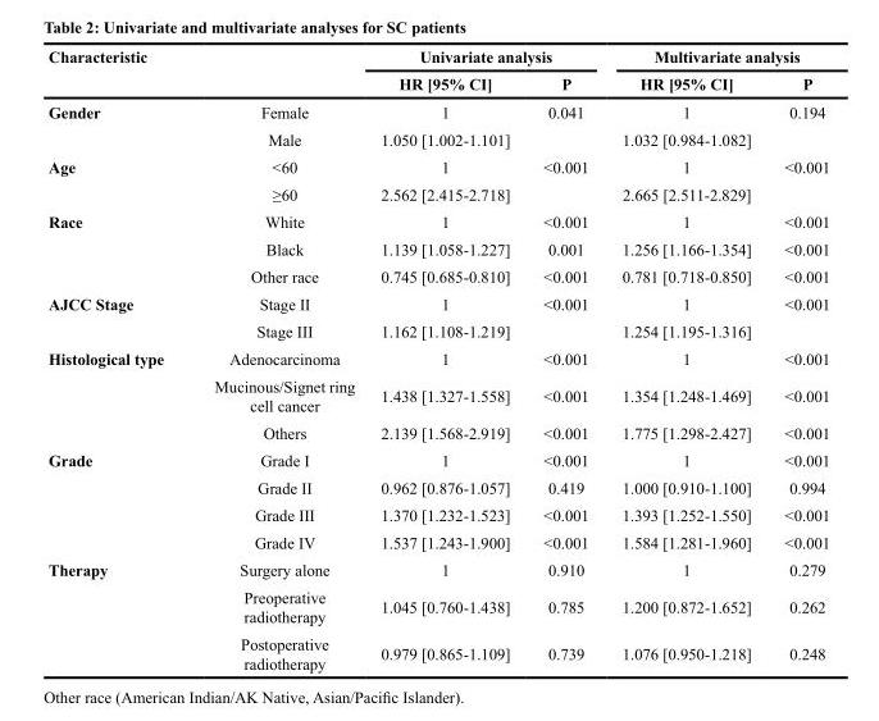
<table><thead><tr><td rowspan="2" colspan="2">Characteristic</td><td colspan="2">Univariate analysis</td><td colspan="2">Multivariate analysis</td></tr><tr><td rowspan="2">HR [95% CI] 1</td><td rowspan="2">P 0.041</td><td rowspan="2">HR [95% CI] 1</td><td rowspan="2">P 0.194</td></tr><tr><td>Gender</td><td>Female</td></tr></thead><tbody><tr><td></td><td>Male</td><td>1.050 [1.002-1.101]</td><td></td><td>1.032 [0.984-1.082]</td><td></td></tr><tr><td rowspan="2">Age</td><td>&lt;60</td><td>1</td><td>&lt;0.001</td><td>1</td><td>&lt;0.001</td></tr><tr><td>≥60</td><td>2.562 [2.415-2.718]</td><td></td><td>2.665 [2.511-2.829]</td><td></td></tr><tr><td rowspan="3">Race</td><td>White</td><td>1</td><td>&lt;0.001</td><td>1</td><td>&lt;0.001</td></tr><tr><td>Black</td><td>1.139 [1.058-1.227]</td><td>0.001</td><td>1.256 [1.166-1.354]</td><td>&lt;0.001</td></tr><tr><td>Other race</td><td>0.745 [0.685-0.810]</td><td>&lt;0.001</td><td>0.781 [0.718-0.850]</td><td>&lt;0.001</td></tr><tr><td rowspan="2">AJCC Stage</td><td>Stage II</td><td>1</td><td>&lt;0.001</td><td>1</td><td>&lt;0.001</td></tr><tr><td>Stage III</td><td>1.162 [1.108-1.219]</td><td></td><td>1.254 [1.195-1.316]</td><td></td></tr><tr><td rowspan="3">Histological type</td><td>Adenocarcinoma</td><td>1</td><td>&lt;0.001</td><td>1</td><td>&lt;0.001</td></tr><tr><td>Mucinous/Signet ring cell cancer</td><td>1.438 [1.327-1.558]</td><td>&lt;0.001</td><td>1.354 [1.248-1.469]</td><td>&lt;0.001</td></tr><tr><td>Others</td><td>2.139 [1.568-2.919]</td><td>&lt;0.001</td><td>1.775 [1.298-2.427]</td><td>&lt;0.001</td></tr><tr><td rowspan="4">Grade</td><td>Grade I</td><td>1</td><td>&lt;0.001</td><td>1</td><td>&lt;0.001</td></tr><tr><td>Grade II</td><td>0.962 [0.876-1.057]</td><td>0.419</td><td>1.000 [0.910-1.100]</td><td>0.994</td></tr><tr><td>Grade III</td><td>1.370 [1.232-1.523]</td><td>&lt;0.001</td><td>1.393 [1.252-1.550]</td><td>&lt;0.001</td></tr><tr><td>Grade IV</td><td>1.537 [1.243-1.900]</td><td>&lt;0.001</td><td>1.584 [1.281-1.960]</td><td>&lt;0.001</td></tr><tr><td rowspan="3">Therapy</td><td>Surgery alone</td><td>1</td><td>0.910</td><td>1</td><td>0.279</td></tr><tr><td>Preoperative radiotherapy</td><td>1.045 [0.760-1.438]</td><td>0.785</td><td>1.200 [0.872-1.652]</td><td>0.262</td></tr><tr><td>Postoperative radiotherapy</td><td>0.979 [0.865-1.109]</td><td>0.739</td><td>1.076 [0.950-1.218]</td><td>0.248</td></tr></tbody></table>